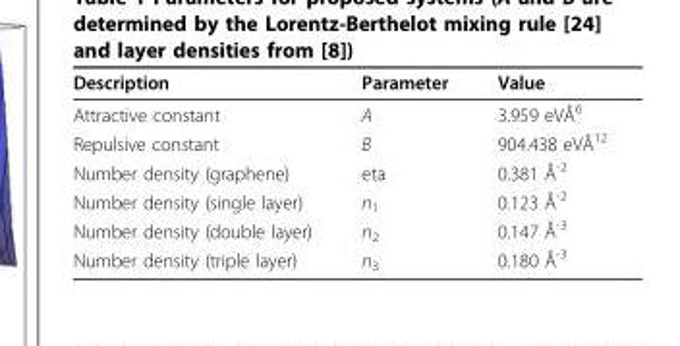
<table><thead><tr><td>Description</td><td>Parameter</td><td>Value</td></tr></thead><tbody><tr><td>Attractive constant</td><td>A</td><td>3.959 eVÅ<sup>6</sup></td></tr><tr><td>Repulsive constant</td><td>B</td><td>904.438 eVÅ<sup>12</sup></td></tr><tr><td>Number density (graphene)</td><td>eta</td><td>0.381 Å<sup>-2</sup></td></tr><tr><td>Number density (single layer)</td><td>n<sub>1</sub></td><td>0.123 Å<sup>-2</sup></td></tr><tr><td>Number density (double layer)</td><td>n<sub>2</sub></td><td>0.147 Å<sup>-3</sup></td></tr><tr><td>Number density (triple layer)</td><td>n<sub>3</sub></td><td>0.180 Å<sup>-3</sup></td></tr></tbody></table>